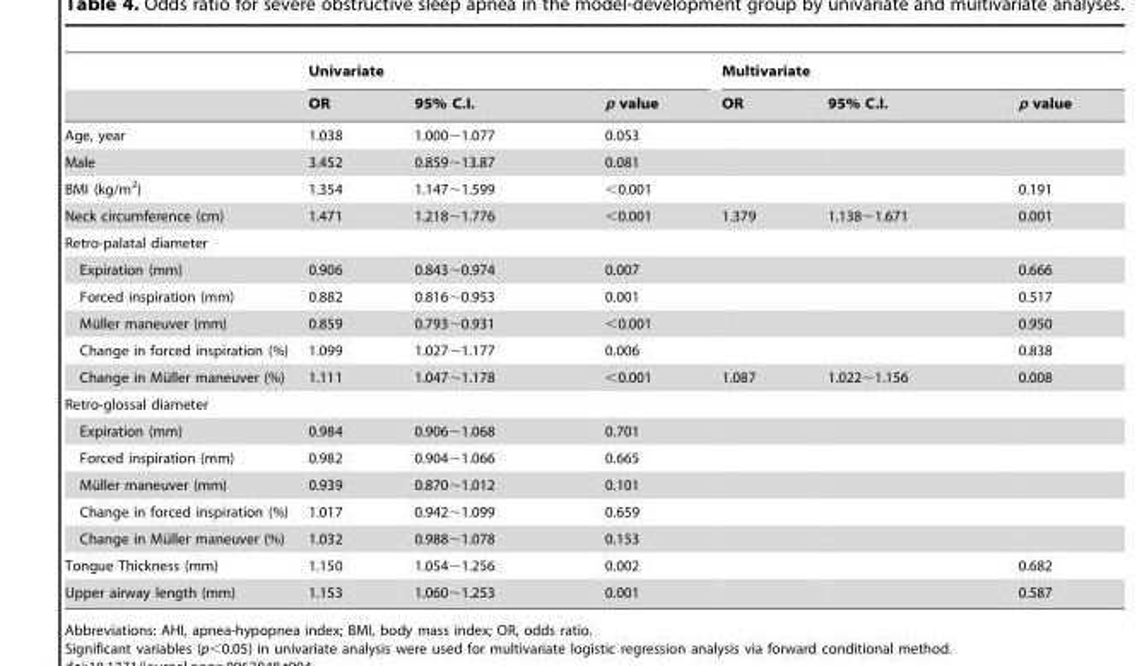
<table><thead><tr><td rowspan="2"></td><td colspan="3">Univariate</td><td colspan="3">Multivariate</td></tr><tr><td>OR</td><td>95% C.I.</td><td>p value</td><td>OR</td><td>95% C.I.</td><td>p value</td></tr></thead><tbody><tr><td>Age, year</td><td>1.038</td><td>1.000∼1.077</td><td>0.053</td><td></td><td></td><td></td></tr><tr><td>Male</td><td>3.452</td><td>0.859∼13.87</td><td>0.081</td><td></td><td></td><td></td></tr><tr><td>BMI (kg/m<sup>2</sup>)</td><td>1.354</td><td>1.147∼1.599</td><td>&lt;0.001</td><td></td><td></td><td>0.191</td></tr><tr><td>Neck circumference (cm)</td><td>1.471</td><td>1.218∼1.776</td><td>&lt;0.001</td><td>1.379</td><td>1.138∼1.671</td><td>0.001</td></tr><tr><td colspan="7">Retro-palatal diameter</td></tr><tr><td>Expiration (mm)</td><td>0.906</td><td>0.843∼0.974</td><td>0.007</td><td></td><td></td><td>0.666</td></tr><tr><td>Forced inspiration (mm)</td><td>0.882</td><td>0.816∼0.953</td><td>0.001</td><td></td><td></td><td>0.517</td></tr><tr><td>Mu¨ller maneuver (mm)</td><td>0.859</td><td>0.793∼0.931</td><td>&lt;0.001</td><td></td><td></td><td>0.950</td></tr><tr><td>Change in forced inspiration (%)</td><td>1.099</td><td>1.027∼1.177</td><td>0.006</td><td></td><td></td><td>0.838</td></tr><tr><td>Change in Mu¨ller maneuver (%)</td><td>1.111</td><td>1.047∼1.178</td><td>&lt;0.001</td><td>1.087</td><td>1.022∼1.156</td><td>0.008</td></tr><tr><td colspan="7">Retro-glossal diameter</td></tr><tr><td>Expiration (mm)</td><td>0.984</td><td>0.906∼1.068</td><td>0.701</td><td></td><td></td><td></td></tr><tr><td>Forced inspiration (mm)</td><td>0.982</td><td>0.904∼1.066</td><td>0.665</td><td></td><td></td><td></td></tr><tr><td>Mu¨ller maneuver (mm)</td><td>0.939</td><td>0.870∼1.012</td><td>0.101</td><td></td><td></td><td></td></tr><tr><td>Change in forced inspiration (%)</td><td>1.017</td><td>0.942∼1.099</td><td>0.659</td><td></td><td></td><td></td></tr><tr><td>Change in Mu¨ller maneuver (%)</td><td>1.032</td><td>0.988∼1.078</td><td>0.153</td><td></td><td></td><td></td></tr><tr><td>Tongue Thickness (mm)</td><td>1.150</td><td>1.054∼1.256</td><td>0.002</td><td></td><td></td><td>0.682</td></tr><tr><td>Upper airway length (mm)</td><td>1.153</td><td>1.060∼1.253</td><td>0.001</td><td></td><td></td><td>0.587</td></tr></tbody></table>